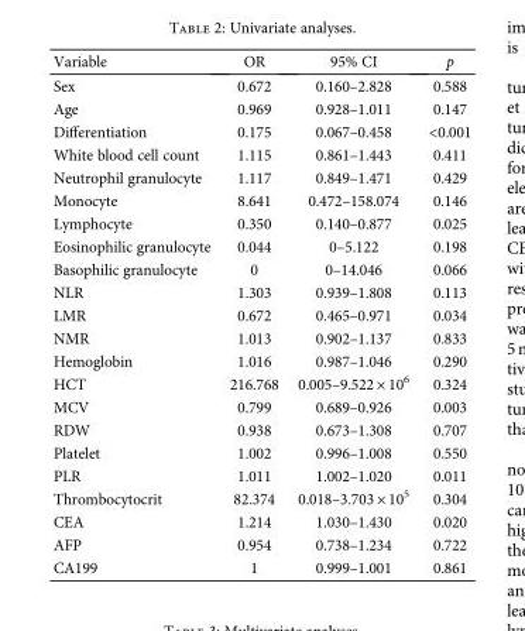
<table><thead><tr><td>Variable</td><td>OR</td><td>95% CI</td><td>p</td></tr></thead><tbody><tr><td>Sex</td><td>0.672</td><td>0.160–2.828</td><td>0.588</td></tr><tr><td>Age</td><td>0.969</td><td>0.928–1.011</td><td>0.147</td></tr><tr><td>Differentiation</td><td>0.175</td><td>0.067–0.458</td><td>&lt;0.001</td></tr><tr><td>White blood cell count</td><td>1.115</td><td>0.861–1.443</td><td>0.411</td></tr><tr><td>Neutrophil granulocyte</td><td>1.117</td><td>0.849–1.471</td><td>0.429</td></tr><tr><td>Monocyte</td><td>8.641</td><td>0.472–158.074</td><td>0.146</td></tr><tr><td>Lymphocyte</td><td>0.350</td><td>0.140–0.877</td><td>0.025</td></tr><tr><td>Eosinophilic granulocyte</td><td>0.044</td><td>0–5.122</td><td>0.198</td></tr><tr><td>Basophilic granulocyte</td><td>0</td><td>0–14.046</td><td>0.066</td></tr><tr><td>NLR</td><td>1.303</td><td>0.939–1.808</td><td>0.113</td></tr><tr><td>LMR</td><td>0.672</td><td>0.465–0.971</td><td>0.034</td></tr><tr><td>NMR</td><td>1.013</td><td>0.902–1.137</td><td>0.833</td></tr><tr><td>Hemoglobin</td><td>1.016</td><td>0.987–1.046</td><td>0.290</td></tr><tr><td>HCT</td><td>216.768</td><td>0.005–9.522 × 10<sup>6</sup></td><td>0.324</td></tr><tr><td>MCV</td><td>0.799</td><td>0.689–0.926</td><td>0.003</td></tr><tr><td>RDW</td><td>0.938</td><td>0.673–1.308</td><td>0.707</td></tr><tr><td>Platelet</td><td>1.002</td><td>0.996–1.008</td><td>0.550</td></tr><tr><td>PLR</td><td>1.011</td><td>1.002–1.020</td><td>0.011</td></tr><tr><td>Thrombocytocrit</td><td>82.374</td><td>0.018–3.703 × 10<sup>5</sup></td><td>0.304</td></tr><tr><td>CEA</td><td>1.214</td><td>1.030–1.430</td><td>0.020</td></tr><tr><td>AFP</td><td>0.954</td><td>0.738–1.234</td><td>0.722</td></tr><tr><td>CA199</td><td>1</td><td>0.999–1.001</td><td>0.861</td></tr></tbody></table>